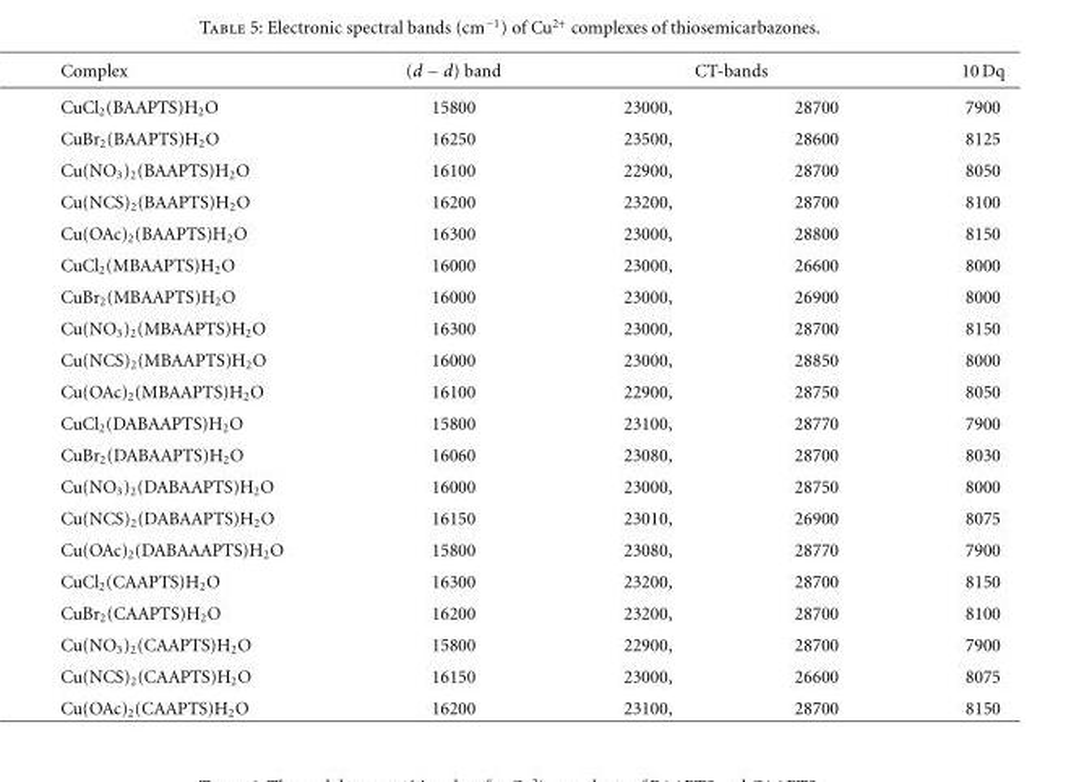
<table><tbody><tr><td>Complex</td><td>(d − d) band</td><td colspan="2">CT-bands</td><td>10 Dq</td></tr><tr><td>CuCl<sub>2</sub>(BAAPTS)H<sub>2</sub>O</td><td>15800</td><td>23000,</td><td>28700</td><td>7900</td></tr><tr><td>CuBr<sub>2</sub>(BAAPTS)H<sub>2</sub>O</td><td>16250</td><td>23500,</td><td>28600</td><td>8125</td></tr><tr><td>Cu(NO<sub>3</sub>)<sub>2</sub>(BAAPTS)H<sub>2</sub>O</td><td>16100</td><td>22900,</td><td>28700</td><td>8050</td></tr><tr><td>Cu(NCS)<sub>2</sub>(BAAPTS)H<sub>2</sub>O</td><td>16200</td><td>23200,</td><td>28700</td><td>8100</td></tr><tr><td>Cu(OAc)<sub>2</sub>(BAAPTS)H<sub>2</sub>O</td><td>16300</td><td>23000,</td><td>28800</td><td>8150</td></tr><tr><td>CuCl<sub>2</sub>(MBAAPTS)H<sub>2</sub>O</td><td>16000</td><td>23000,</td><td>26600</td><td>8000</td></tr><tr><td>CuBr<sub>2</sub>(MBAAPTS)H<sub>2</sub>O</td><td>16000</td><td>23000,</td><td>26900</td><td>8000</td></tr><tr><td>Cu(NO<sub>3</sub>)<sub>2</sub>(MBAAPTS)H<sub>2</sub>O</td><td>16300</td><td>23000,</td><td>28700</td><td>8150</td></tr><tr><td>Cu(NCS)<sub>2</sub>(MBAAPTS)H<sub>2</sub>O</td><td>16000</td><td>23000,</td><td>28850</td><td>8000</td></tr><tr><td>Cu(OAc)<sub>2</sub>(MBAAPTS)H<sub>2</sub>O</td><td>16100</td><td>22900,</td><td>28750</td><td>8050</td></tr><tr><td>CuCl<sub>2</sub>(DABAAPTS)H<sub>2</sub>O</td><td>15800</td><td>23100,</td><td>28770</td><td>7900</td></tr><tr><td>CuBr<sub>2</sub>(DABAAPTS)H<sub>2</sub>O</td><td>16060</td><td>23080,</td><td>28700</td><td>8030</td></tr><tr><td>Cu(NO<sub>3</sub>)<sub>2</sub>(DABAAPTS)H<sub>2</sub>O</td><td>16000</td><td>23000,</td><td>28750</td><td>8000</td></tr><tr><td>Cu(NCS)<sub>2</sub>(DABAAPTS)H<sub>2</sub>O</td><td>16150</td><td>23010,</td><td>26900</td><td>8075</td></tr><tr><td>Cu(OAc)<sub>2</sub>(DABAAAPTS)H<sub>2</sub>O</td><td>15800</td><td>23080,</td><td>28770</td><td>7900</td></tr><tr><td>CuCl<sub>2</sub>(CAAPTS)H<sub>2</sub>O</td><td>16300</td><td>23200,</td><td>28700</td><td>8150</td></tr><tr><td>CuBr<sub>2</sub>(CAAPTS)H<sub>2</sub>O</td><td>16200</td><td>23200,</td><td>28700</td><td>8100</td></tr><tr><td>Cu(NO<sub>3</sub>)<sub>2</sub>(CAAPTS)H<sub>2</sub>O</td><td>15800</td><td>22900,</td><td>28700</td><td>7900</td></tr><tr><td>Cu(NCS)<sub>2</sub>(CAAPTS)H<sub>2</sub>O</td><td>16150</td><td>23000,</td><td>26600</td><td>8075</td></tr><tr><td>Cu(OAc)<sub>2</sub>(CAAPTS)H<sub>2</sub>O</td><td>16200</td><td>23100,</td><td>28700</td><td>8150</td></tr></tbody></table>